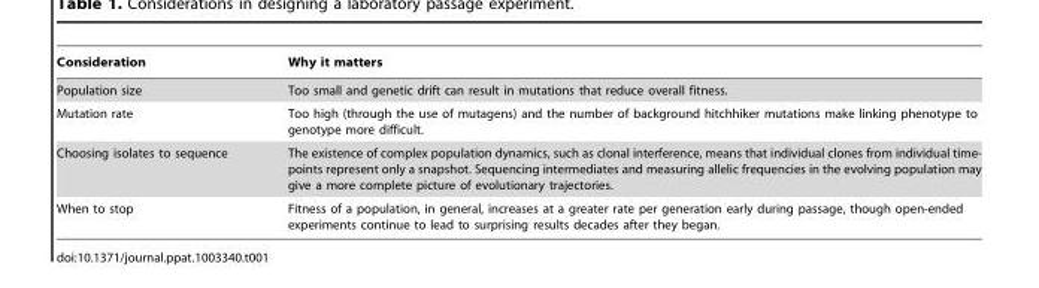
<table><thead><tr><td>Consideration</td><td>Why it matters</td></tr></thead><tbody><tr><td>Population size</td><td>Too small and genetic drift can result in mutations that reduce overall fitness.</td></tr><tr><td>Mutation rate</td><td>Too high (through the use of mutagens) and the number of background hitchhiker mutations make linking phenotype to genotype more difficult.</td></tr><tr><td>Choosing isolates to sequence</td><td>The existence of complex population dynamics, such as clonal interference, means that individual clones from individual time- points represent only a snapshot. Sequencing intermediates and measuring allelic frequencies in the evolving population may give a more complete picture of evolutionary trajectories.</td></tr><tr><td>When to stop</td><td>Fitness of a population, in general, increases at a greater rate per generation early during passage, though open-ended experiments continue to lead to surprising results decades after they began.</td></tr></tbody></table>